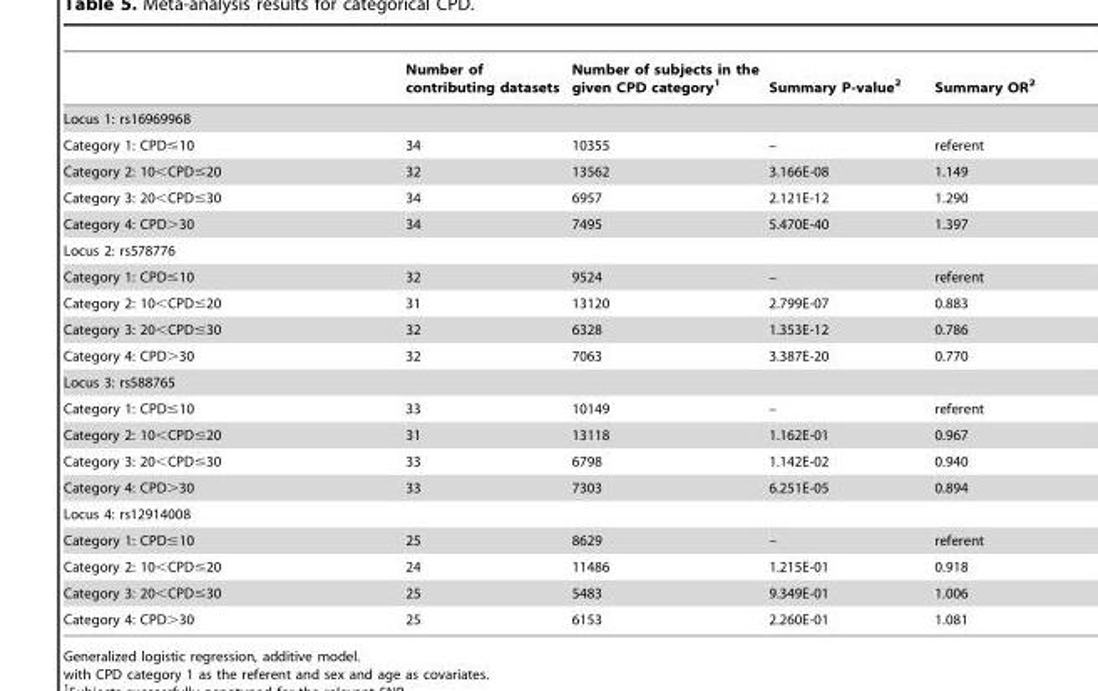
<table><thead><tr><td></td><td>Number of contributing datasets</td><td>Number of subjects in the given CPD category<sup>1</sup></td><td>Summary P-value<sup>2</sup></td><td>Summary OR<sup>2</sup></td></tr></thead><tbody><tr><td colspan="5">Locus 1: rs16969968</td></tr><tr><td>Category 1: CPD≤10</td><td>34</td><td>10355</td><td>–</td><td>referent</td></tr><tr><td>Category 2: 10&lt;CPD≤20</td><td>32</td><td>13562</td><td>3.166E-08</td><td>1.149</td></tr><tr><td>Category 3: 20&lt;CPD≤30</td><td>34</td><td>6957</td><td>2.121E-12</td><td>1.290</td></tr><tr><td>Category 4: CPD&gt;30</td><td>34</td><td>7495</td><td>5.470E-40</td><td>1.397</td></tr><tr><td colspan="5">Locus 2: rs578776</td></tr><tr><td>Category 1: CPD≤10</td><td>32</td><td>9524</td><td>–</td><td>referent</td></tr><tr><td>Category 2: 10&lt;CPD≤20</td><td>31</td><td>13120</td><td>2.799E-07</td><td>0.883</td></tr><tr><td>Category 3: 20&lt;CPD≤30</td><td>32</td><td>6328</td><td>1.353E-12</td><td>0.786</td></tr><tr><td>Category 4: CPD&gt;30</td><td>32</td><td>7063</td><td>3.387E-20</td><td>0.770</td></tr><tr><td colspan="5">Locus 3: rs588765</td></tr><tr><td>Category 1: CPD≤10</td><td>33</td><td>10149</td><td>–</td><td>referent</td></tr><tr><td>Category 2: 10&lt;CPD≤20</td><td>31</td><td>13118</td><td>1.162E-01</td><td>0.967</td></tr><tr><td>Category 3: 20&lt;CPD≤30</td><td>33</td><td>6798</td><td>1.142E-02</td><td>0.940</td></tr><tr><td>Category 4: CPD&gt;30</td><td>33</td><td>7303</td><td>6.251E-05</td><td>0.894</td></tr><tr><td colspan="5">Locus 4: rs12914008</td></tr><tr><td>Category 1: CPD≤10</td><td>25</td><td>8629</td><td>–</td><td>referent</td></tr><tr><td>Category 2: 10&lt;CPD≤20</td><td>24</td><td>11486</td><td>1.215E-01</td><td>0.918</td></tr><tr><td>Category 3: 20&lt;CPD≤30</td><td>25</td><td>5483</td><td>9.349E-01</td><td>1.006</td></tr><tr><td>Category 4: CPD&gt;30</td><td>25</td><td>6153</td><td>2.260E-01</td><td>1.081</td></tr></tbody></table>